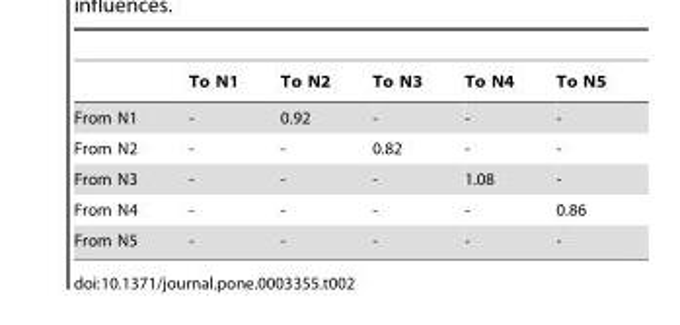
<table><thead><tr><td></td><td>To N1</td><td>To N2</td><td>To N3</td><td>To N4</td><td>To N5</td></tr></thead><tbody><tr><td>From N1</td><td>-</td><td>0.92</td><td>-</td><td>-</td><td>-</td></tr><tr><td>From N2</td><td>-</td><td>-</td><td>0.82</td><td>-</td><td>-</td></tr><tr><td>From N3</td><td>-</td><td>-</td><td>-</td><td>1.08</td><td>-</td></tr><tr><td>From N4</td><td>-</td><td>-</td><td>-</td><td>-</td><td>0.86</td></tr><tr><td>From N5</td><td>-</td><td>-</td><td>-</td><td>-</td><td>-</td></tr></tbody></table>